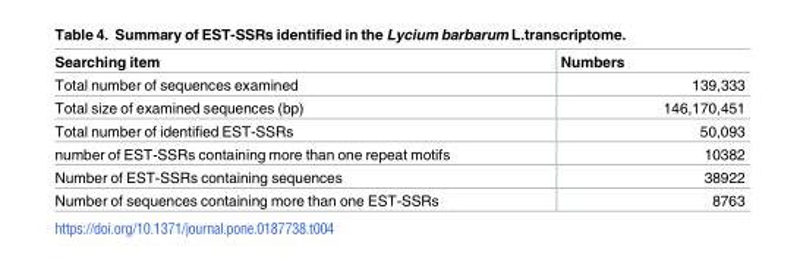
<table><thead><tr><td>Searching item</td><td>Numbers</td></tr></thead><tbody><tr><td>Total number of sequences examined</td><td>139,333</td></tr><tr><td>Total size of examined sequences (bp)</td><td>146,170,451</td></tr><tr><td>Total number of identified EST-SSRs</td><td>50,093</td></tr><tr><td>number of EST-SSRs containing more than one repeat motifs</td><td>10382</td></tr><tr><td>Number of EST-SSRs containing sequences</td><td>38922</td></tr><tr><td>Number of sequences containing more than one EST-SSRs</td><td>8763</td></tr></tbody></table>